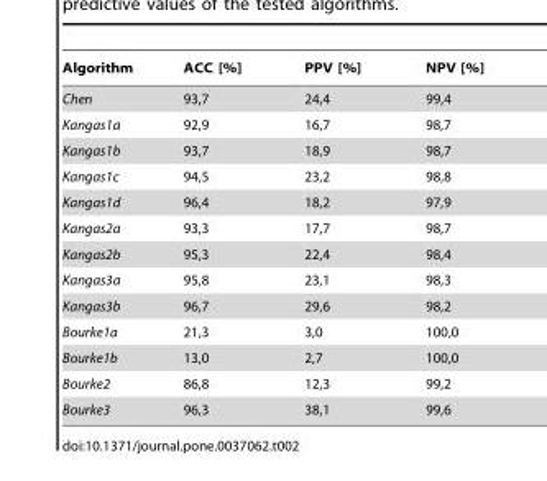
<table><thead><tr><td>Algorithm</td><td>ACC [%]</td><td>PPV [%]</td><td>NPV [%]</td></tr></thead><tbody><tr><td>Chen</td><td>93,7</td><td>24,4</td><td>99,4</td></tr><tr><td>Kangas1a</td><td>92,9</td><td>16,7</td><td>98,7</td></tr><tr><td>Kangas1b</td><td>93,7</td><td>18,9</td><td>98,7</td></tr><tr><td>Kangas1c</td><td>94,5</td><td>23,2</td><td>98,8</td></tr><tr><td>Kangas1d</td><td>96,4</td><td>18,2</td><td>97,9</td></tr><tr><td>Kangas2a</td><td>93,3</td><td>17,7</td><td>98,7</td></tr><tr><td>Kangas2b</td><td>95,3</td><td>22,4</td><td>98,4</td></tr><tr><td>Kangas3a</td><td>95,8</td><td>23,1</td><td>98,3</td></tr><tr><td>Kangas3b</td><td>96,7</td><td>29,6</td><td>98,2</td></tr><tr><td>Bourke1a</td><td>21,3</td><td>3,0</td><td>100,0</td></tr><tr><td>Bourke1b</td><td>13,0</td><td>2,7</td><td>100,0</td></tr><tr><td>Bourke2</td><td>86,8</td><td>12,3</td><td>99,2</td></tr><tr><td>Bourke3</td><td>96,3</td><td>38,1</td><td>99,6</td></tr></tbody></table>